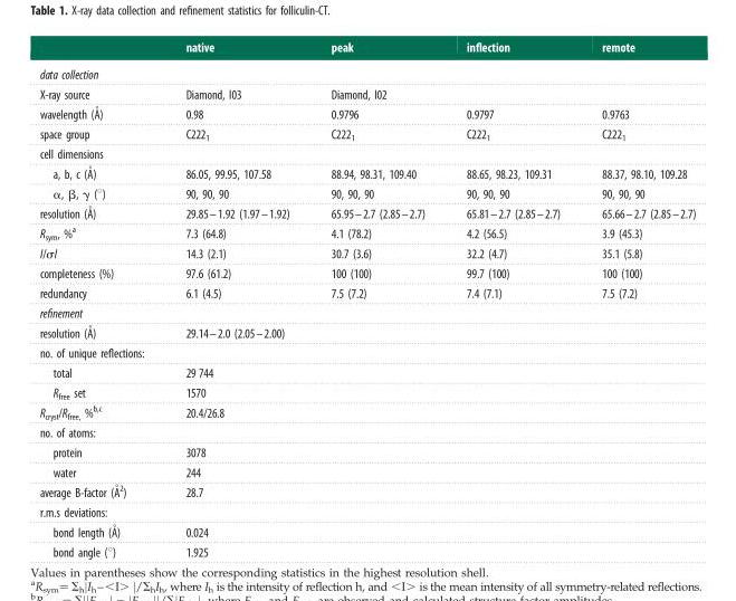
<table><thead><tr><td></td><td>native</td><td>peak</td><td>inflection</td><td>remote</td></tr></thead><tbody><tr><td colspan="5">data collection</td></tr><tr><td>X-ray source</td><td>Diamond, I03</td><td>Diamond, I02</td><td></td><td></td></tr><tr><td>wavelength (A˚)</td><td>0.98</td><td>0.9796</td><td>0.9797</td><td>0.9763</td></tr><tr><td>space group</td><td>C222<sub>1</sub></td><td>C222<sub>1</sub></td><td>C222<sub>1</sub></td><td>C222<sub>1</sub></td></tr><tr><td colspan="5">cell dimensions</td></tr><tr><td>a, b, c (A˚)</td><td>86.05, 99.95, 107.58</td><td>88.94, 98.31, 109.40</td><td>88.65, 98.23, 109.31</td><td>88.37, 98.10, 109.28</td></tr><tr><td>α, β, γ (°)</td><td>90, 90, 90</td><td>90, 90, 90</td><td>90, 90, 90</td><td>90, 90, 90</td></tr><tr><td>resolution (A˚)</td><td>29.85–1.92 (1.97–1.92)</td><td>65.95–2.7 (2.85–2.7)</td><td>65.81–2.7 (2.85–2.7)</td><td>65.66–2.7 (2.85–2.7)</td></tr><tr><td>R<sub>sym</sub>, %<sup>a</sup></td><td>7.3 (64.8)</td><td>4.1 (78.2)</td><td>4.2 (56.5)</td><td>3.9 (45.3)</td></tr><tr><td>I/σI</td><td>14.3 (2.1)</td><td>30.7 (3.6)</td><td>32.2 (4.7)</td><td>35.1 (5.8)</td></tr><tr><td>completeness (%)</td><td>97.6 (61.2)</td><td>100 (100)</td><td>99.7 (100)</td><td>100 (100)</td></tr><tr><td>redundancy</td><td>6.1 (4.5)</td><td>7.5 (7.2)</td><td>7.4 (7.1)</td><td>7.5 (7.2)</td></tr><tr><td colspan="5">refinement</td></tr><tr><td>resolution (A˚)</td><td>29.14–2.0 (2.05–2.00)</td><td></td><td></td><td></td></tr><tr><td colspan="5">no. of unique reflections:</td></tr><tr><td>total</td><td>29 744</td><td></td><td></td><td></td></tr><tr><td>R<sub>free</sub> set</td><td>1570</td><td></td><td></td><td></td></tr><tr><td>R<sub>cryst</sub>/R<sub>free,</sub> %<sup>b,c</sup></td><td>20.4/26.8</td><td></td><td></td><td></td></tr><tr><td colspan="5">no. of atoms:</td></tr><tr><td>protein</td><td>3078</td><td></td><td></td><td></td></tr><tr><td>water</td><td>244</td><td></td><td></td><td></td></tr><tr><td>average B-factor (A˚2)</td><td>28.7</td><td></td><td></td><td></td></tr><tr><td colspan="5">r.m.s deviations:</td></tr><tr><td>bond length (A˚)</td><td>0.024</td><td></td><td></td><td></td></tr><tr><td>bond angle (°)</td><td>1.925</td><td></td><td></td><td></td></tr></tbody></table>